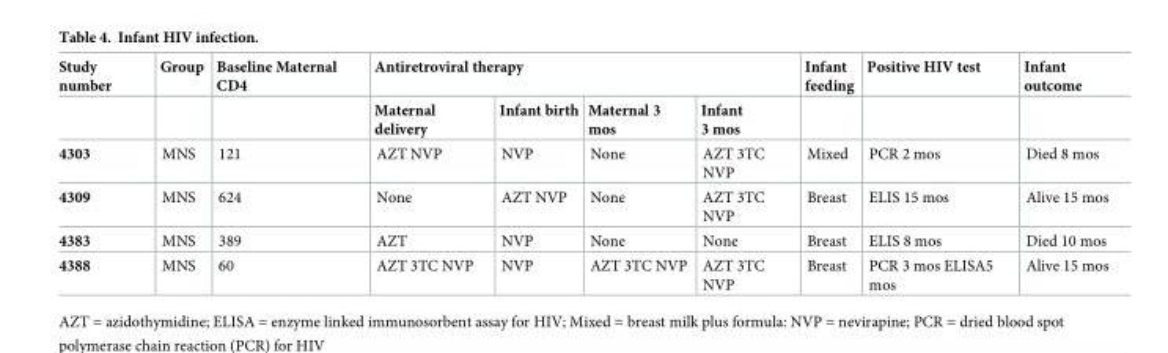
<table><thead><tr><td rowspan="2">Study number</td><td rowspan="2">Group</td><td rowspan="2">Baseline Maternal CD4</td><td colspan="4">Antiretroviral therapy</td><td rowspan="2">Infant feeding</td><td rowspan="2">Positive HIV test</td><td rowspan="2">Infant outcome</td></tr><tr><td>Maternal delivery</td><td>Infant birth</td><td>Maternal 3 mos</td><td>Infant 3 mos</td></tr></thead><tbody><tr><td>4303</td><td>MNS</td><td>121</td><td>AZT NVP</td><td>NVP</td><td>None</td><td>AZT 3TC NVP</td><td>Mixed</td><td>PCR 2 mos</td><td>Died 8 mos</td></tr><tr><td>4309</td><td>MNS</td><td>624</td><td>None</td><td>AZT NVP</td><td>None</td><td>AZT 3TC NVP</td><td>Breast</td><td>ELIS 15 mos</td><td>Alive 15 mos</td></tr><tr><td>4383</td><td>MNS</td><td>389</td><td>AZT</td><td>NVP</td><td>None</td><td>None</td><td>Breast</td><td>ELIS 8 mos</td><td>Died 10 mos</td></tr><tr><td>4388</td><td>MNS</td><td>60</td><td>AZT 3TC NVP</td><td>NVP</td><td>AZT 3TC NVP</td><td>AZT 3TC NVP</td><td>Breast</td><td>PCR 3 mos ELISA5 mos</td><td>Alive 15 mos</td></tr></tbody></table>